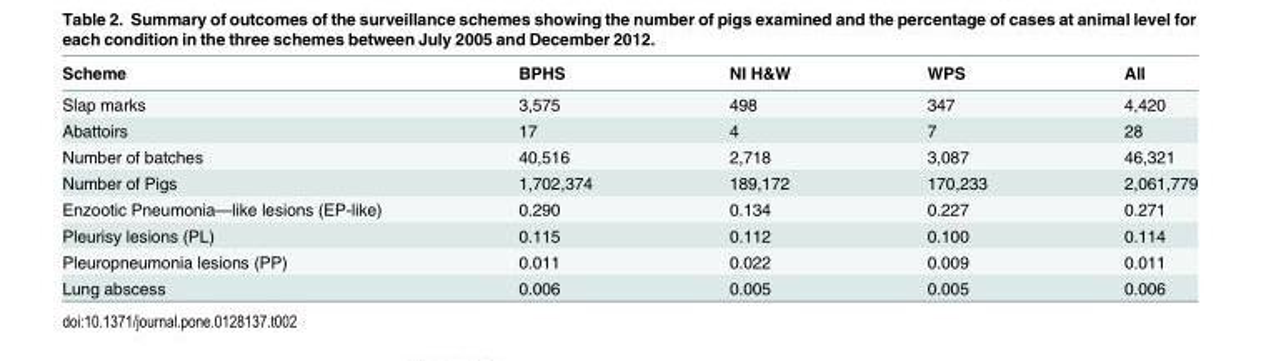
<table><thead><tr><td>Scheme</td><td>BPHS</td><td>NI H&amp;W</td><td>WPS</td><td>All</td></tr></thead><tbody><tr><td>Slap marks</td><td>3,575</td><td>498</td><td>347</td><td>4,420</td></tr><tr><td>Abattoirs</td><td>17</td><td>4</td><td>7</td><td>28</td></tr><tr><td>Number of batches</td><td>40,516</td><td>2,718</td><td>3,087</td><td>46,321</td></tr><tr><td>Number of Pigs</td><td>1,702,374</td><td>189,172</td><td>170,233</td><td>2,061,779</td></tr><tr><td>Enzootic Pneumonia—like lesions (EP-like)</td><td>0.290</td><td>0.134</td><td>0.227</td><td>0.271</td></tr><tr><td>Pleurisy lesions (PL)</td><td>0.115</td><td>0.112</td><td>0.100</td><td>0.114</td></tr><tr><td>Pleuropneumonia lesions (PP)</td><td>0.011</td><td>0.022</td><td>0.009</td><td>0.011</td></tr><tr><td>Lung abscess</td><td>0.006</td><td>0.005</td><td>0.005</td><td>0.006</td></tr></tbody></table>